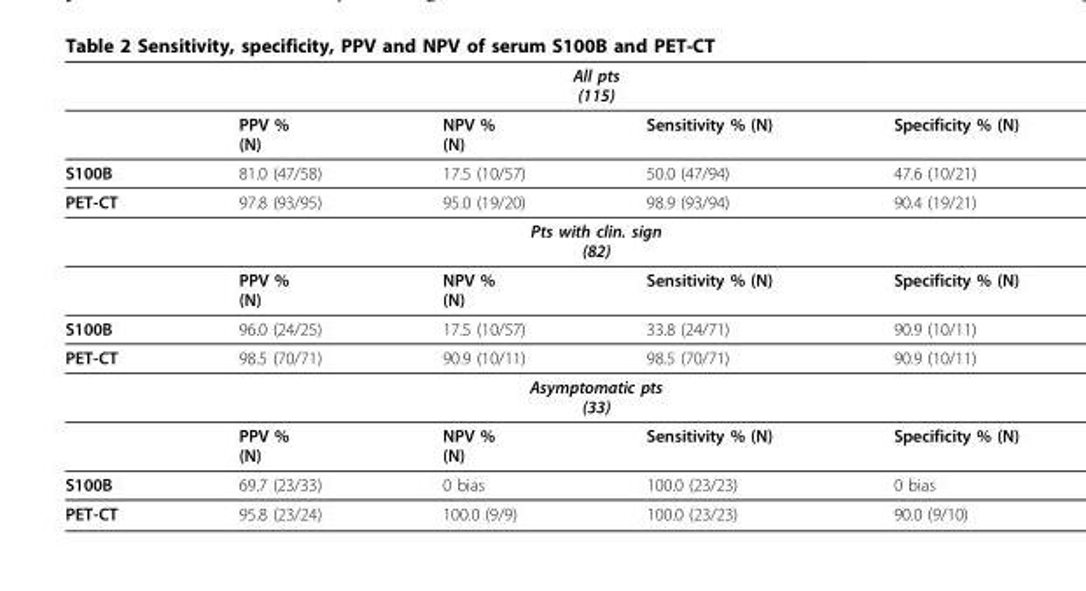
<table><thead><tr><td colspan="5">All pts (115)</td></tr><tr><td></td><td>PPV % (N)</td><td>NPV % (N)</td><td>Sensitivity % (N)</td><td>Specificity % (N)</td></tr></thead><tbody><tr><td>S100B</td><td>81.0 (47/58)</td><td>17.5 (10/57)</td><td>50.0 (47/94)</td><td>47.6 (10/21)</td></tr><tr><td>PET-CT</td><td>97.8 (93/95)</td><td>95.0 (19/20)</td><td>98.9 (93/94)</td><td>90.4 (19/21)</td></tr><tr><td colspan="5">Pts with clin. sign (82)</td></tr><tr><td></td><td>PPV % (N)</td><td>NPV % (N)</td><td>Sensitivity % (N)</td><td>Specificity % (N)</td></tr><tr><td>S100B</td><td>96.0 (24/25)</td><td>17.5 (10/57)</td><td>33.8 (24/71)</td><td>90.9 (10/11)</td></tr><tr><td>PET-CT</td><td>98.5 (70/71)</td><td>90.9 (10/11)</td><td>98.5 (70/71)</td><td>90.9 (10/11)</td></tr><tr><td colspan="5">Asymptomatic pts (33)</td></tr><tr><td></td><td>PPV % (N)</td><td>NPV % (N)</td><td>Sensitivity % (N)</td><td>Specificity % (N)</td></tr><tr><td>S100B</td><td>69.7 (23/33)</td><td>0 bias</td><td>100.0 (23/23)</td><td>0 bias</td></tr><tr><td>PET-CT</td><td>95.8 (23/24)</td><td>100.0 (9/9)</td><td>100.0 (23/23)</td><td>90.0 (9/10)</td></tr></tbody></table>